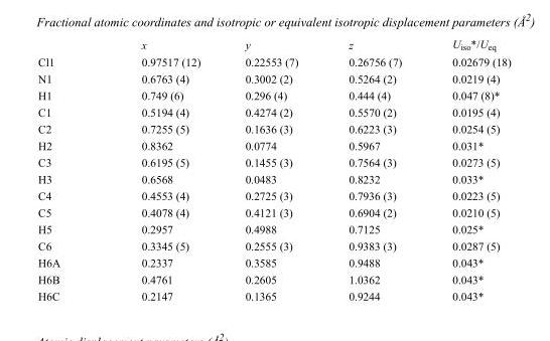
<table><thead><tr><td></td><td>x</td><td>y</td><td>z</td><td>U<sub>iso</sub>*/U<sub>eq</sub></td></tr></thead><tbody><tr><td>Cl1</td><td>0.97517 (12)</td><td>0.22553 (7)</td><td>0.26756 (7)</td><td>0.02679 (18)</td></tr><tr><td>N1</td><td>0.6763 (4)</td><td>0.3002 (2)</td><td>0.5264 (2)</td><td>0.0219 (4)</td></tr><tr><td>H1</td><td>0.749 (6)</td><td>0.296 (4)</td><td>0.444 (4)</td><td>0.047 (8)*</td></tr><tr><td>C1</td><td>0.5194 (4)</td><td>0.4274 (2)</td><td>0.5570 (2)</td><td>0.0195 (4)</td></tr><tr><td>C2</td><td>0.7255 (5)</td><td>0.1636 (3)</td><td>0.6223 (3)</td><td>0.0254 (5)</td></tr><tr><td>H2</td><td>0.8362</td><td>0.0774</td><td>0.5967</td><td>0.031*</td></tr><tr><td>C3</td><td>0.6195 (5)</td><td>0.1455 (3)</td><td>0.7564 (3)</td><td>0.0273 (5)</td></tr><tr><td>H3</td><td>0.6568</td><td>0.0483</td><td>0.8232</td><td>0.033*</td></tr><tr><td>C4</td><td>0.4553 (4)</td><td>0.2725 (3)</td><td>0.7936 (3)</td><td>0.0223 (5)</td></tr><tr><td>C5</td><td>0.4078 (4)</td><td>0.4121 (3)</td><td>0.6904 (2)</td><td>0.0210 (5)</td></tr><tr><td>H5</td><td>0.2957</td><td>0.4988</td><td>0.7125</td><td>0.025*</td></tr><tr><td>C6</td><td>0.3345 (5)</td><td>0.2555 (3)</td><td>0.9383 (3)</td><td>0.0287 (5)</td></tr><tr><td>H6A</td><td>0.2337</td><td>0.3585</td><td>0.9488</td><td>0.043*</td></tr><tr><td>H6B</td><td>0.4761</td><td>0.2605</td><td>1.0362</td><td>0.043*</td></tr><tr><td>H6C</td><td>0.2147</td><td>0.1365</td><td>0.9244</td><td>0.043*</td></tr></tbody></table>